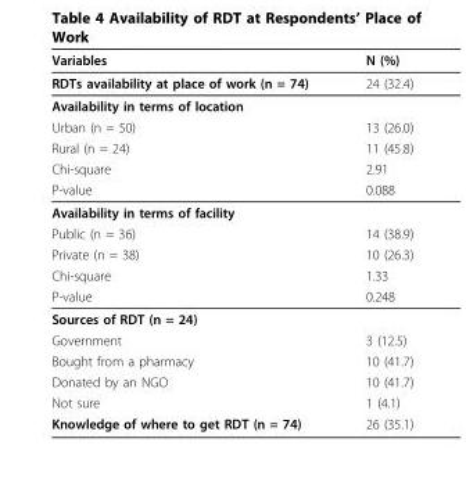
<table><thead><tr><td>Variables</td><td>N (%)</td></tr></thead><tbody><tr><td>RDTs availability at place of work (n = 74)</td><td>24 (32.4)</td></tr><tr><td colspan="2">Availability in terms of location</td></tr><tr><td>Urban (n = 50)</td><td>13 (26.0)</td></tr><tr><td>Rural (n = 24)</td><td>11 (45.8)</td></tr><tr><td>Chi-square</td><td>2.91</td></tr><tr><td>P-value</td><td>0.088</td></tr><tr><td colspan="2">Availability in terms of facility</td></tr><tr><td>Public (n = 36)</td><td>14 (38.9)</td></tr><tr><td>Private (n = 38)</td><td>10 (26.3)</td></tr><tr><td>Chi-square</td><td>1.33</td></tr><tr><td>P-value</td><td>0.248</td></tr><tr><td colspan="2">Sources of RDT (n = 24)</td></tr><tr><td>Government</td><td>3 (12.5)</td></tr><tr><td>Bought from a pharmacy</td><td>10 (41.7)</td></tr><tr><td>Donated by an NGO</td><td>10 (41.7)</td></tr><tr><td>Not sure</td><td>1 (4.1)</td></tr><tr><td>Knowledge of where to get RDT (n = 74)</td><td>26 (35.1)</td></tr></tbody></table>